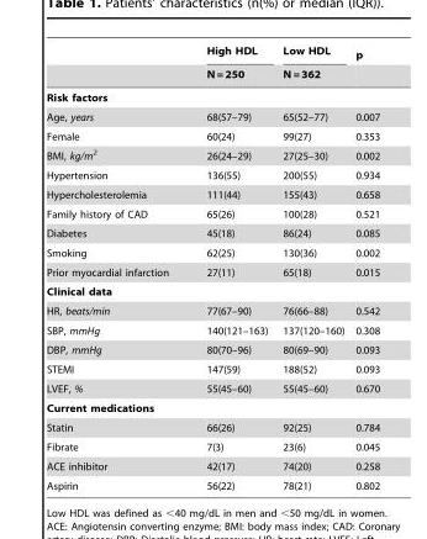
<table><thead><tr><td rowspan="2"></td><td rowspan="2">High HDL N = 250</td><td rowspan="2">Low HDL N = 362</td><td rowspan="2">p</td></tr><tr></tr></thead><tbody><tr><td colspan="4">Risk factors</td></tr><tr><td>Age, years</td><td>68(57–79)</td><td>65(52–77)</td><td>0.007</td></tr><tr><td>Female</td><td>60(24)</td><td>99(27)</td><td>0.353</td></tr><tr><td>BMI, kg/m<sup>2</sup></td><td>26(24–29)</td><td>27(25–30)</td><td>0.002</td></tr><tr><td>Hypertension</td><td>136(55)</td><td>200(55)</td><td>0.934</td></tr><tr><td>Hypercholesterolemia</td><td>111(44)</td><td>155(43)</td><td>0.658</td></tr><tr><td>Family history of CAD</td><td>65(26)</td><td>100(28)</td><td>0.521</td></tr><tr><td>Diabetes</td><td>45(18)</td><td>86(24)</td><td>0.085</td></tr><tr><td>Smoking</td><td>62(25)</td><td>130(36)</td><td>0.002</td></tr><tr><td>Prior myocardial infarction</td><td>27(11)</td><td>65(18)</td><td>0.015</td></tr><tr><td colspan="4">Clinical data</td></tr><tr><td>HR, beats/min</td><td>77(67–90)</td><td>76(66–88)</td><td>0.542</td></tr><tr><td>SBP, mmHg</td><td>140(121–163)</td><td>137(120–160)</td><td>0.308</td></tr><tr><td>DBP, mmHg</td><td>80(70–96)</td><td>80(69–90)</td><td>0.093</td></tr><tr><td>STEMI</td><td>147(59)</td><td>188(52)</td><td>0.093</td></tr><tr><td>LVEF, %</td><td>55(45–60)</td><td>55(45–60)</td><td>0.670</td></tr><tr><td colspan="4">Current medications</td></tr><tr><td>Statin</td><td>66(26)</td><td>92(25)</td><td>0.784</td></tr><tr><td>Fibrate</td><td>7(3)</td><td>23(6)</td><td>0.045</td></tr><tr><td>ACE inhibitor</td><td>42(17)</td><td>74(20)</td><td>0.258</td></tr><tr><td>Aspirin</td><td>56(22)</td><td>78(21)</td><td>0.802</td></tr></tbody></table>